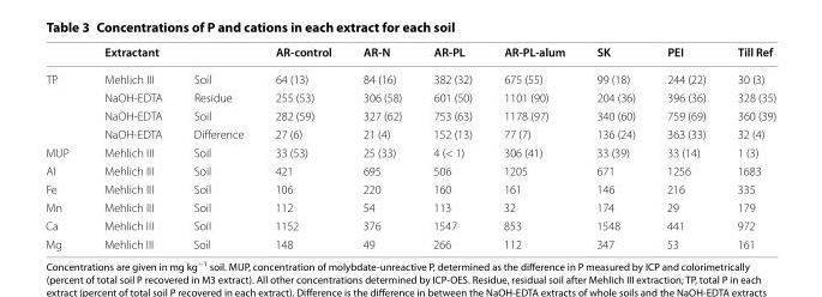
<table><thead><tr><td></td><td>Extractant</td><td></td><td>AR‑control</td><td>AR‑N</td><td>AR‑PL</td><td>AR‑PL‑alum</td><td>SK</td><td>PEI</td><td>Till Ref</td></tr></thead><tbody><tr><td rowspan="4">TP</td><td>Mehlich III</td><td>Soil</td><td>64 (13)</td><td>84 (16)</td><td>382 (32)</td><td>675 (55)</td><td>99 (18)</td><td>244 (22)</td><td>30 (3)</td></tr><tr><td>NaOH‑EDTA</td><td>Residue</td><td>255 (53)</td><td>306 (58)</td><td>601 (50)</td><td>1101 (90)</td><td>204 (36)</td><td>396 (36)</td><td>328 (35)</td></tr><tr><td>NaOH‑EDTA</td><td>Soil</td><td>282 (59)</td><td>327 (62)</td><td>753 (63)</td><td>1178 (97)</td><td>340 (60)</td><td>759 (69)</td><td>360 (39)</td></tr><tr><td>NaOH‑EDTA</td><td>Difference</td><td>27 (6)</td><td>21 (4)</td><td>152 (13)</td><td>77 (7)</td><td>136 (24)</td><td>363 (33)</td><td>32 (4)</td></tr><tr><td>MUP</td><td>Mehlich III</td><td>Soil</td><td>33 (53)</td><td>25 (33)</td><td>4 (&lt; 1)</td><td>306 (41)</td><td>33 (39)</td><td>33 (14)</td><td>1 (3)</td></tr><tr><td>Al</td><td>Mehlich III</td><td>Soil</td><td>421</td><td>695</td><td>506</td><td>1205</td><td>671</td><td>1256</td><td>1683</td></tr><tr><td>Fe</td><td>Mehlich III</td><td>Soil</td><td>106</td><td>220</td><td>160</td><td>161</td><td>146</td><td>216</td><td>335</td></tr><tr><td>Mn</td><td>Mehlich III</td><td>Soil</td><td>112</td><td>54</td><td>113</td><td>32</td><td>174</td><td>29</td><td>179</td></tr><tr><td>Ca</td><td>Mehlich III</td><td>Soil</td><td>1152</td><td>376</td><td>1547</td><td>853</td><td>1548</td><td>441</td><td>972</td></tr><tr><td>Mg</td><td>Mehlich III</td><td>Soil</td><td>148</td><td>49</td><td>266</td><td>112</td><td>347</td><td>53</td><td>161</td></tr></tbody></table>